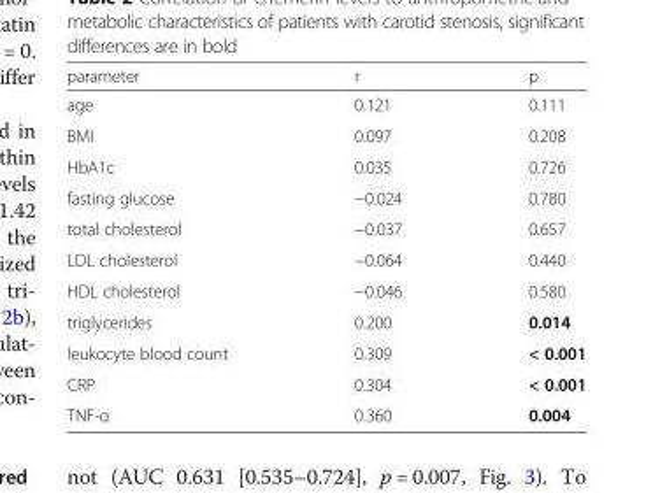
<table><thead><tr><td>parameter</td><td>r</td><td>p</td></tr></thead><tbody><tr><td>age</td><td>0.121</td><td>0.111</td></tr><tr><td>BMI</td><td>0.097</td><td>0.208</td></tr><tr><td>HbA1c</td><td>0.035</td><td>0.726</td></tr><tr><td>fasting glucose</td><td>−0.024</td><td>0.780</td></tr><tr><td>total cholesterol</td><td>−0.037</td><td>0.657</td></tr><tr><td>LDL cholesterol</td><td>−0.064</td><td>0.440</td></tr><tr><td>HDL cholesterol</td><td>−0.046</td><td>0.580</td></tr><tr><td>triglycerides</td><td>0.200</td><td>0.014</td></tr><tr><td>leukocyte blood count</td><td>0.309</td><td>&lt; 0.001</td></tr><tr><td>CRP</td><td>0.304</td><td>&lt; 0.001</td></tr><tr><td>TNF-α</td><td>0.360</td><td>0.004</td></tr></tbody></table>